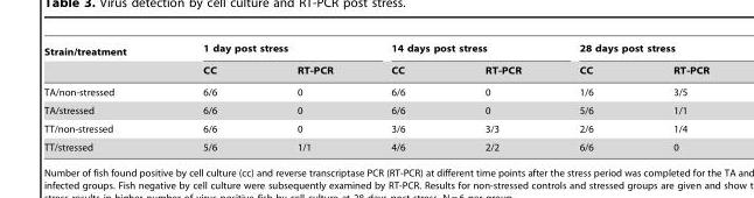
<table><thead><tr><td rowspan="2">Strain/treatment</td><td colspan="2">1 day post stress</td><td colspan="2">14 days post stress</td><td colspan="2">28 days post stress</td></tr><tr><td>CC</td><td>RT-PCR</td><td>CC</td><td>RT-PCR</td><td>CC</td><td>RT-PCR</td></tr></thead><tbody><tr><td>TA/non-stressed</td><td>6/6</td><td>0</td><td>6/6</td><td>0</td><td>1/6</td><td>3/5</td></tr><tr><td>TA/stressed</td><td>6/6</td><td>0</td><td>6/6</td><td>0</td><td>5/6</td><td>1/1</td></tr><tr><td>TT/non-stressed</td><td>6/6</td><td>0</td><td>3/6</td><td>3/3</td><td>2/6</td><td>1/4</td></tr><tr><td>TT/stressed</td><td>5/6</td><td>1/1</td><td>4/6</td><td>2/2</td><td>6/6</td><td>0</td></tr></tbody></table>